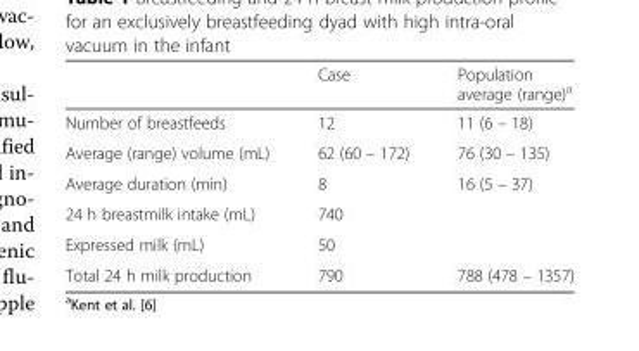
<table><thead><tr><td></td><td>Case</td><td>Population average (range)<sup>a</sup></td></tr></thead><tbody><tr><td>Number of breastfeeds</td><td>12</td><td>11 (6 – 18)</td></tr><tr><td>Average (range) volume (mL)</td><td>62 (60 – 172)</td><td>76 (30 – 135)</td></tr><tr><td>Average duration (min)</td><td>8</td><td>16 (5 – 37)</td></tr><tr><td>24 h breastmilk intake (mL)</td><td>740</td><td></td></tr><tr><td>Expressed milk (mL)</td><td>50</td><td></td></tr><tr><td>Total 24 h milk production</td><td>790</td><td>788 (478 – 1357)</td></tr></tbody></table>